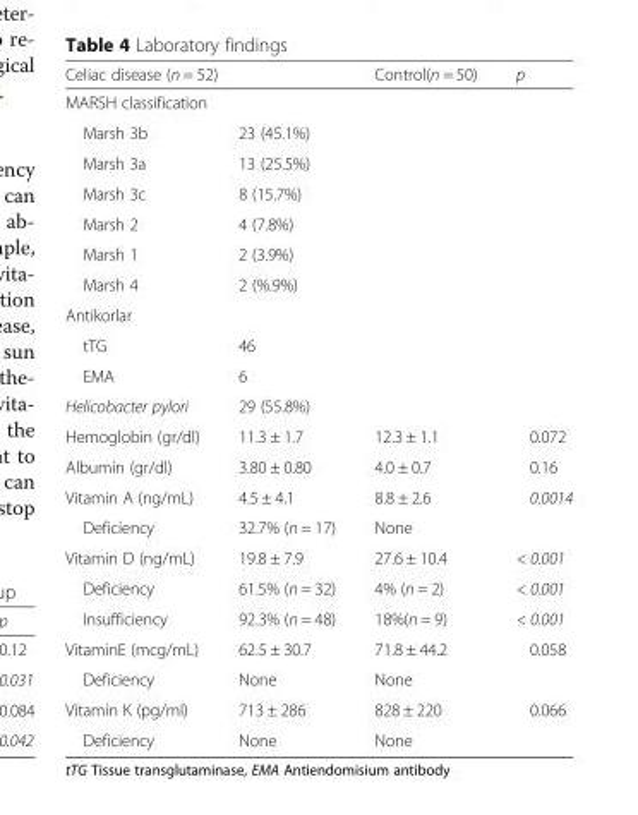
<table><thead><tr><td colspan="2">Celiac disease (n = 52)</td><td>Control(n = 50)</td><td>p</td></tr><tr><td colspan="4">MARSH classification</td></tr><tr><td>Marsh 3b</td><td>23 (45.1%)</td><td></td><td></td></tr></thead><tbody><tr><td>Marsh 3a</td><td>13 (25.5%)</td><td></td><td></td></tr><tr><td>Marsh 3c</td><td>8 (15.7%)</td><td></td><td></td></tr><tr><td>Marsh 2</td><td>4 (7.8%)</td><td></td><td></td></tr><tr><td>Marsh 1</td><td>2 (3.9%)</td><td></td><td></td></tr><tr><td>Marsh 4</td><td>2 (%.9%)</td><td></td><td></td></tr><tr><td colspan="4">Antikorlar</td></tr><tr><td>tTG</td><td>46</td><td></td><td></td></tr><tr><td>EMA</td><td>6</td><td></td><td></td></tr><tr><td>Helicobacter pylori</td><td>29 (55.8%)</td><td></td><td></td></tr><tr><td>Hemoglobin (gr/dl)</td><td>11.3 ± 1.7</td><td>12.3 ± 1.1</td><td>0.072</td></tr><tr><td>Albumin (gr/dl)</td><td>3.80 ± 0.80</td><td>4.0 ± 0.7</td><td>0.16</td></tr><tr><td>Vitamin A (ng/mL)</td><td>4.5 ± 4.1</td><td>8.8 ± 2.6</td><td>0.0014</td></tr><tr><td>Deficiency</td><td>32.7% (n = 17)</td><td>None</td><td></td></tr><tr><td>Vitamin D (ng/mL)</td><td>19.8 ± 7.9</td><td>27.6 ± 10.4</td><td>&lt; 0.001</td></tr><tr><td>Deficiency</td><td>61.5% (n = 32)</td><td>4% (n = 2)</td><td>&lt; 0.001</td></tr><tr><td>Insufficiency</td><td>92.3% (n = 48)</td><td>18%(n = 9)</td><td>&lt; 0.001</td></tr><tr><td>VitaminE (mcg/mL)</td><td>62.5 ± 30.7</td><td>71.8 ± 44.2</td><td>0.058</td></tr><tr><td>Deficiency</td><td>None</td><td>None</td><td></td></tr><tr><td>Vitamin K (pg/ml)</td><td>713 ± 286</td><td>828 ± 220</td><td>0.066</td></tr><tr><td>Deficiency</td><td>None</td><td>None</td><td></td></tr></tbody></table>